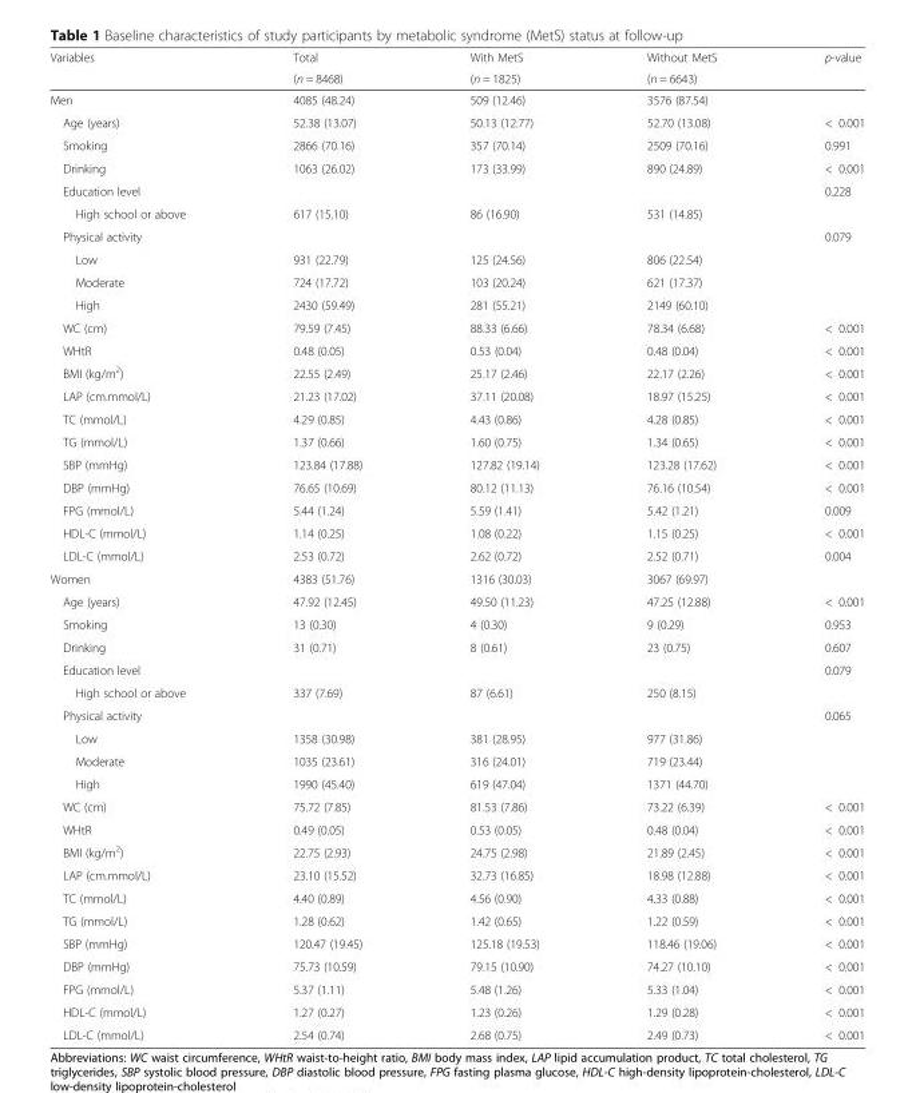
<table><thead><tr><td rowspan="2">Variables</td><td rowspan="2">Total (n = 8468)</td><td rowspan="2">With MetS (n = 1825)</td><td rowspan="2">Without MetS (n = 6643)</td><td rowspan="2">p-value</td></tr><tr></tr></thead><tbody><tr><td>Men</td><td>4085 (48.24)</td><td>509 (12.46)</td><td>3576 (87.54)</td><td></td></tr><tr><td>Age (years)</td><td>52.38 (13.07)</td><td>50.13 (12.77)</td><td>52.70 (13.08)</td><td>&lt; 0.001</td></tr><tr><td>Smoking</td><td>2866 (70.16)</td><td>357 (70.14)</td><td>2509 (70.16)</td><td>0.991</td></tr><tr><td>Drinking</td><td>1063 (26.02)</td><td>173 (33.99)</td><td>890 (24.89)</td><td>&lt; 0.001</td></tr><tr><td>Education level</td><td></td><td></td><td></td><td>0.228</td></tr><tr><td>High school or above</td><td>617 (15.10)</td><td>86 (16.90)</td><td>531 (14.85)</td><td></td></tr><tr><td>Physical activity</td><td></td><td></td><td></td><td>0.079</td></tr><tr><td>Low</td><td>931 (22.79)</td><td>125 (24.56)</td><td>806 (22.54)</td><td rowspan="3"></td></tr><tr><td>Moderate</td><td>724 (17.72)</td><td>103 (20.24)</td><td>621 (17.37)</td></tr><tr><td>High</td><td>2430 (59.49)</td><td>281 (55.21)</td><td>2149 (60.10)</td></tr><tr><td>WC (cm)</td><td>79.59 (7.45)</td><td>88.33 (6.66)</td><td>78.34 (6.68)</td><td>&lt; 0.001</td></tr><tr><td>WHtR</td><td>0.48 (0.05)</td><td>0.53 (0.04)</td><td>0.48 (0.04)</td><td>&lt; 0.001</td></tr><tr><td>BMI (kg/m<sup>2</sup>)</td><td>22.55 (2.49)</td><td>25.17 (2.46)</td><td>22.17 (2.26)</td><td>&lt; 0.001</td></tr><tr><td>LAP (cm.mmol/L)</td><td>21.23 (17.02)</td><td>37.11 (20.08)</td><td>18.97 (15.25)</td><td>&lt; 0.001</td></tr><tr><td>TC (mmol/L)</td><td>4.29 (0.85)</td><td>4.43 (0.86)</td><td>4.28 (0.85)</td><td>&lt; 0.001</td></tr><tr><td>TG (mmol/L)</td><td>1.37 (0.66)</td><td>1.60 (0.75)</td><td>1.34 (0.65)</td><td>&lt; 0.001</td></tr><tr><td>SBP (mmHg)</td><td>123.84 (17.88)</td><td>127.82 (19.14)</td><td>123.28 (17.62)</td><td>&lt; 0.001</td></tr><tr><td>DBP (mmHg)</td><td>76.65 (10.69)</td><td>80.12 (11.13)</td><td>76.16 (10.54)</td><td>&lt; 0.001</td></tr><tr><td>FPG (mmol/L)</td><td>5.44 (1.24)</td><td>5.59 (1.41)</td><td>5.42 (1.21)</td><td>0.009</td></tr><tr><td>HDL-C (mmol/L)</td><td>1.14 (0.25)</td><td>1.08 (0.22)</td><td>1.15 (0.25)</td><td>&lt; 0.001</td></tr><tr><td>LDL-C (mmol/L)</td><td>2.53 (0.72)</td><td>2.62 (0.72)</td><td>2.52 (0.71)</td><td>0.004</td></tr><tr><td>Women</td><td>4383 (51.76)</td><td>1316 (30.03)</td><td>3067 (69.97)</td><td></td></tr><tr><td>Age (years)</td><td>47.92 (12.45)</td><td>49.50 (11.23)</td><td>47.25 (12.88)</td><td>&lt; 0.001</td></tr><tr><td>Smoking</td><td>13 (0.30)</td><td>4 (0.30)</td><td>9 (0.29)</td><td>0.953</td></tr><tr><td>Drinking</td><td>31 (0.71)</td><td>8 (0.61)</td><td>23 (0.75)</td><td>0.607</td></tr><tr><td>Education level</td><td></td><td></td><td></td><td>0.079</td></tr><tr><td>High school or above</td><td>337 (7.69)</td><td>87 (6.61)</td><td>250 (8.15)</td><td></td></tr><tr><td>Physical activity</td><td></td><td></td><td></td><td>0.065</td></tr><tr><td>Low</td><td>1358 (30.98)</td><td>381 (28.95)</td><td>977 (31.86)</td><td></td></tr><tr><td>Moderate</td><td>1035 (23.61)</td><td>316 (24.01)</td><td>719 (23.44)</td><td></td></tr><tr><td>High</td><td>1990 (45.40)</td><td>619 (47.04)</td><td>1371 (44.70)</td><td></td></tr><tr><td>WC (cm)</td><td>75.72 (7.85)</td><td>81.53 (7.86)</td><td>73.22 (6.39)</td><td>&lt; 0.001</td></tr><tr><td>WHtR</td><td>0.49 (0.05)</td><td>0.53 (0.05)</td><td>0.48 (0.04)</td><td>&lt; 0.001</td></tr><tr><td>BMI (kg/m<sup>2</sup>)</td><td>22.75 (2.93)</td><td>24.75 (2.98)</td><td>21.89 (2.45)</td><td>&lt; 0.001</td></tr><tr><td>LAP (cm.mmol/L)</td><td>23.10 (15.52)</td><td>32.73 (16.85)</td><td>18.98 (12.88)</td><td>&lt; 0.001</td></tr><tr><td>TC (mmol/L)</td><td>4.40 (0.89)</td><td>4.56 (0.90)</td><td>4.33 (0.88)</td><td>&lt; 0.001</td></tr><tr><td>TG (mmol/L)</td><td>1.28 (0.62)</td><td>1.42 (0.65)</td><td>1.22 (0.59)</td><td>&lt; 0.001</td></tr><tr><td>SBP (mmHg)</td><td>120.47 (19.45)</td><td>125.18 (19.53)</td><td>118.46 (19.06)</td><td>&lt; 0.001</td></tr><tr><td>DBP (mmHg)</td><td>75.73 (10.59)</td><td>79.15 (10.90)</td><td>74.27 (10.10)</td><td>&lt; 0.001</td></tr><tr><td>FPG (mmol/L)</td><td>5.37 (1.11)</td><td>5.48 (1.26)</td><td>5.33 (1.04)</td><td>&lt; 0.001</td></tr><tr><td>HDL-C (mmol/L)</td><td>1.27 (0.27)</td><td>1.23 (0.26)</td><td>1.29 (0.28)</td><td>&lt; 0.001</td></tr><tr><td>LDL-C (mmol/L)</td><td>2.54 (0.74)</td><td>2.68 (0.75)</td><td>2.49 (0.73)</td><td>&lt; 0.001</td></tr></tbody></table>